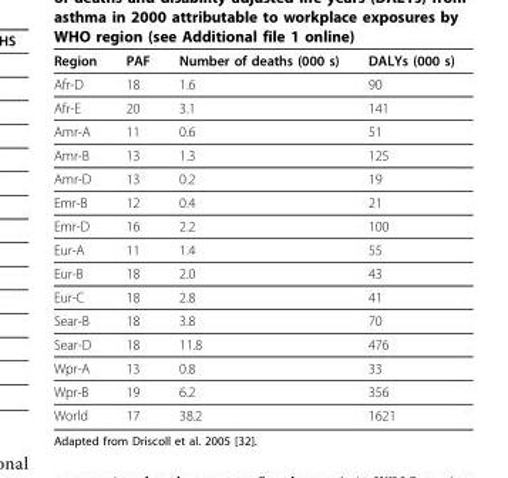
<table><thead><tr><td>Region</td><td>PAF</td><td>Number of deaths (000 s)</td><td>DALYs (000 s)</td></tr></thead><tbody><tr><td>Afr-D</td><td>18</td><td>1.6</td><td>90</td></tr><tr><td>Afr-E</td><td>20</td><td>3.1</td><td>141</td></tr><tr><td>Amr-A</td><td>11</td><td>0.6</td><td>51</td></tr><tr><td>Amr-B</td><td>13</td><td>1.3</td><td>125</td></tr><tr><td>Amr-D</td><td>13</td><td>0.2</td><td>19</td></tr><tr><td>Emr-B</td><td>12</td><td>0.4</td><td>21</td></tr><tr><td>Emr-D</td><td>16</td><td>2.2</td><td>100</td></tr><tr><td>Eur-A</td><td>11</td><td>1.4</td><td>55</td></tr><tr><td>Eur-B</td><td>18</td><td>2.0</td><td>43</td></tr><tr><td>Eur-C</td><td>18</td><td>2.8</td><td>41</td></tr><tr><td>Sear-B</td><td>18</td><td>3.8</td><td>70</td></tr><tr><td>Sear-D</td><td>18</td><td>11.8</td><td>476</td></tr><tr><td>Wpr-A</td><td>13</td><td>0.8</td><td>33</td></tr><tr><td>Wpr-B</td><td>19</td><td>6.2</td><td>356</td></tr><tr><td>World</td><td>17</td><td>38.2</td><td>1621</td></tr></tbody></table>